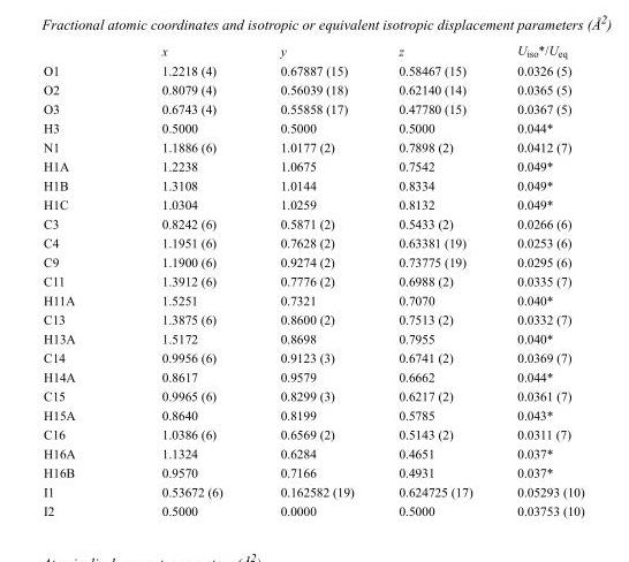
<table><thead><tr><td></td><td>x</td><td>y</td><td>z</td><td>U<sub>iso</sub>*/U<sub>eq</sub></td></tr></thead><tbody><tr><td>O1</td><td>1.2218 (4)</td><td>0.67887 (15)</td><td>0.58467 (15)</td><td>0.0326 (5)</td></tr><tr><td>O2</td><td>0.8079 (4)</td><td>0.56039 (18)</td><td>0.62140 (14)</td><td>0.0365 (5)</td></tr><tr><td>O3</td><td>0.6743 (4)</td><td>0.55858 (17)</td><td>0.47780 (15)</td><td>0.0367 (5)</td></tr><tr><td>H3</td><td>0.5000</td><td>0.5000</td><td>0.5000</td><td>0.044*</td></tr><tr><td>N1</td><td>1.1886 (6)</td><td>1.0177 (2)</td><td>0.7898 (2)</td><td>0.0412 (7)</td></tr><tr><td>H1A</td><td>1.2238</td><td>1.0675</td><td>0.7542</td><td>0.049*</td></tr><tr><td>H1B</td><td>1.3108</td><td>1.0144</td><td>0.8334</td><td>0.049*</td></tr><tr><td>H1C</td><td>1.0304</td><td>1.0259</td><td>0.8132</td><td>0.049*</td></tr><tr><td>C3</td><td>0.8242 (6)</td><td>0.5871 (2)</td><td>0.5433 (2)</td><td>0.0266 (6)</td></tr><tr><td>C4</td><td>1.1951 (6)</td><td>0.7628 (2)</td><td>0.63381 (19)</td><td>0.0253 (6)</td></tr><tr><td>C9</td><td>1.1900 (6)</td><td>0.9274 (2)</td><td>0.73775 (19)</td><td>0.0295 (6)</td></tr><tr><td>C11</td><td>1.3912 (6)</td><td>0.7776 (2)</td><td>0.6988 (2)</td><td>0.0335 (7)</td></tr><tr><td>H11A</td><td>1.5251</td><td>0.7321</td><td>0.7070</td><td>0.040*</td></tr><tr><td>C13</td><td>1.3875 (6)</td><td>0.8600 (2)</td><td>0.7513 (2)</td><td>0.0332 (7)</td></tr><tr><td>H13A</td><td>1.5172</td><td>0.8698</td><td>0.7955</td><td>0.040*</td></tr><tr><td>C14</td><td>0.9956 (6)</td><td>0.9123 (3)</td><td>0.6741 (2)</td><td>0.0369 (7)</td></tr><tr><td>H14A</td><td>0.8617</td><td>0.9579</td><td>0.6662</td><td>0.044*</td></tr><tr><td>C15</td><td>0.9965 (6)</td><td>0.8299 (3)</td><td>0.6217 (2)</td><td>0.0361 (7)</td></tr><tr><td>H15A</td><td>0.8640</td><td>0.8199</td><td>0.5785</td><td>0.043*</td></tr><tr><td>C16</td><td>1.0386 (6)</td><td>0.6569 (2)</td><td>0.5143 (2)</td><td>0.0311 (7)</td></tr><tr><td>H16A</td><td>1.1324</td><td>0.6284</td><td>0.4651</td><td>0.037*</td></tr><tr><td>H16B</td><td>0.9570</td><td>0.7166</td><td>0.4931</td><td>0.037*</td></tr><tr><td>I1</td><td>0.53672 (6)</td><td>0.162582 (19)</td><td>0.624725 (17)</td><td>0.05293 (10)</td></tr><tr><td>I2</td><td>0.5000</td><td>0.0000</td><td>0.5000</td><td>0.03753 (10)</td></tr></tbody></table>